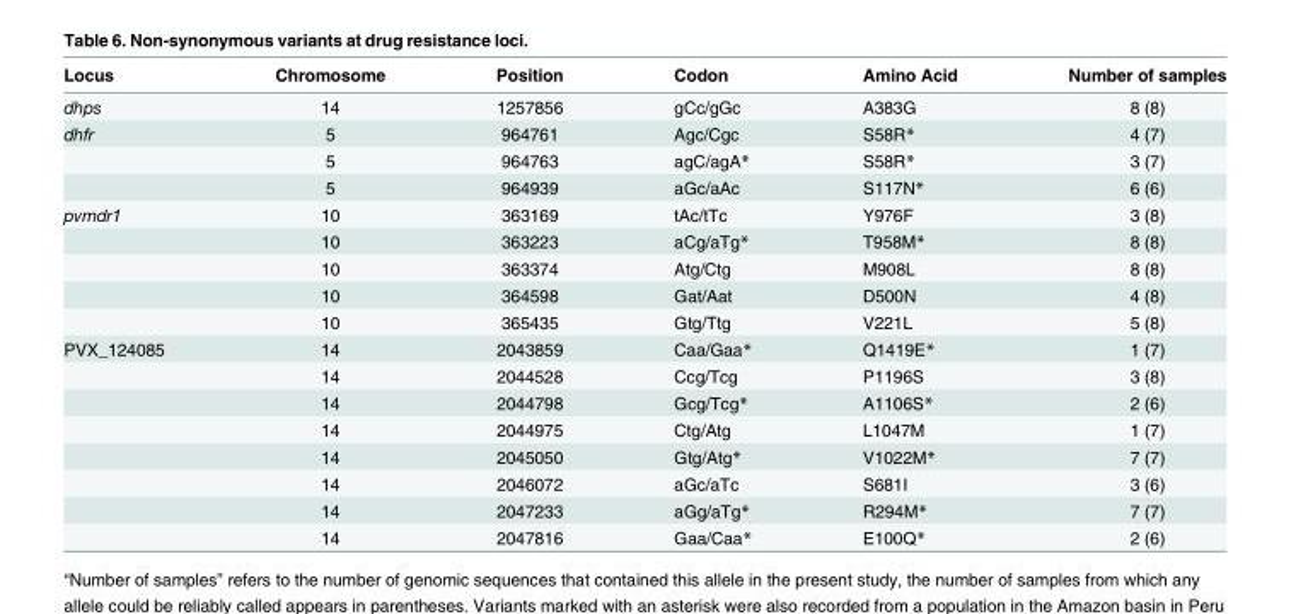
<table><thead><tr><td>Locus</td><td>Chromosome</td><td>Position</td><td>Codon</td><td>Amino Acid</td><td>Number of samples</td></tr></thead><tbody><tr><td>dhps</td><td>14</td><td>1257856</td><td>gCc/gGc</td><td>A383G</td><td>8 (8)</td></tr><tr><td rowspan="3">dhfr</td><td>5</td><td>964761</td><td>Agc/Cgc</td><td>S58R*</td><td>4 (7)</td></tr><tr><td>5</td><td>964763</td><td>agC/agA*</td><td>S58R*</td><td>3 (7)</td></tr><tr><td>5</td><td>964939</td><td>aGc/aAc</td><td>S117N*</td><td>6 (6)</td></tr><tr><td rowspan="5">pvmdr1</td><td>10</td><td>363169</td><td>tAc/tTc</td><td>Y976F</td><td>3 (8)</td></tr><tr><td>10</td><td>363223</td><td>aCg/aTg*</td><td>T958M*</td><td>8 (8)</td></tr><tr><td>10</td><td>363374</td><td>Atg/Ctg</td><td>M908L</td><td>8 (8)</td></tr><tr><td>10</td><td>364598</td><td>Gat/Aat</td><td>D500N</td><td>4 (8)</td></tr><tr><td>10</td><td>365435</td><td>Gtg/Ttg</td><td>V221L</td><td>5 (8)</td></tr><tr><td rowspan="8">PVX_124085</td><td>14</td><td>2043859</td><td>Caa/Gaa*</td><td>Q1419E*</td><td>1 (7)</td></tr><tr><td>14</td><td>2044528</td><td>Ccg/Tcg</td><td>P1196S</td><td>3 (8)</td></tr><tr><td>14</td><td>2044798</td><td>Gcg/Tcg*</td><td>A1106S*</td><td>2 (6)</td></tr><tr><td>14</td><td>2044975</td><td>Ctg/Atg</td><td>L1047M</td><td>1 (7)</td></tr><tr><td>14</td><td>2045050</td><td>Gtg/Atg*</td><td>V1022M*</td><td>7 (7)</td></tr><tr><td>14</td><td>2046072</td><td>aGc/aTc</td><td>S681I</td><td>3 (6)</td></tr><tr><td>14</td><td>2047233</td><td>aGg/aTg*</td><td>R294M*</td><td>7 (7)</td></tr><tr><td>14</td><td>2047816</td><td>Gaa/Caa*</td><td>E100Q*</td><td>2 (6)</td></tr></tbody></table>